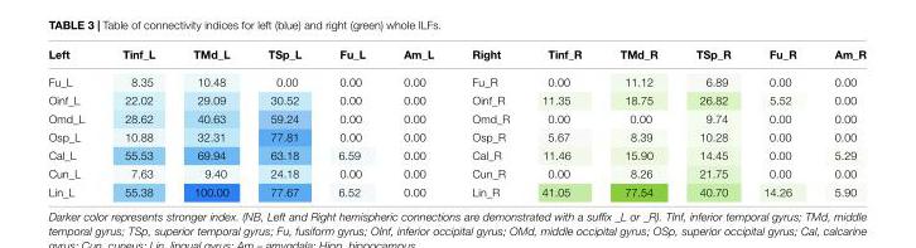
<table><thead><tr><td>Left</td><td>Tinf_L</td><td>TMd_L</td><td>TSp_L</td><td>Fu_L</td><td>Am_L</td><td>Right</td><td>Tinf_R</td><td>TMd_R</td><td>TSp_R</td><td>Fu_R</td><td>Am_R</td></tr></thead><tbody><tr><td>Fu_L</td><td>8.35</td><td>10.48</td><td>0.00</td><td>0.00</td><td>0.00</td><td>Fu_R</td><td>0.00</td><td>11.12</td><td>6.89</td><td>0.00</td><td>0.00</td></tr><tr><td>Oinf_L</td><td>22.02</td><td>29.09</td><td>30.52</td><td>0.00</td><td>0.00</td><td>Oinf_R</td><td>11.35</td><td>18.75</td><td>26.82</td><td>5.52</td><td>0.00</td></tr><tr><td>Omd_L</td><td>28.62</td><td>40.63</td><td>59.24</td><td>0.00</td><td>0.00</td><td>Omd_R</td><td>0.00</td><td>0.00</td><td>9.74</td><td>0.00</td><td>0.00</td></tr><tr><td>Osp_L</td><td>10.88</td><td>32.31</td><td>77.81</td><td>0.00</td><td>0.00</td><td>Osp_R</td><td>5.67</td><td>8.39</td><td>10.28</td><td>0.00</td><td>0.00</td></tr><tr><td>Cal_L</td><td>55.53</td><td>69.94</td><td>63.18</td><td>6.59</td><td>0.00</td><td>Cal_R</td><td>11.46</td><td>15.90</td><td>14.45</td><td>0.00</td><td>5.29</td></tr><tr><td>Cun_L</td><td>7.63</td><td>9.40</td><td>24.18</td><td>0.00</td><td>0.00</td><td>Cun_R</td><td>0.00</td><td>8.26</td><td>21.75</td><td>0.00</td><td>0.00</td></tr><tr><td>Lin_L</td><td>55.38</td><td>100.00</td><td>77.67</td><td>6.52</td><td>0.00</td><td>Lin_R</td><td>41.05</td><td>77.54</td><td>40.70</td><td>14.26</td><td>5.90</td></tr></tbody></table>